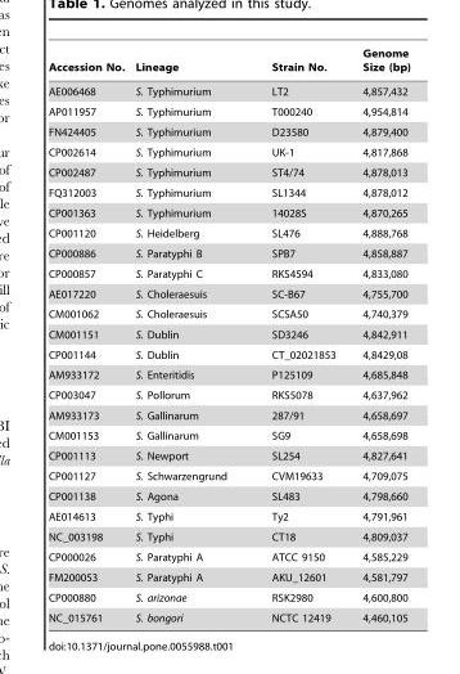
<table><thead><tr><td>Accession No.</td><td>Lineage</td><td>Strain No.</td><td>Genome Size (bp)</td></tr></thead><tbody><tr><td>AE006468</td><td>S. Typhimurium</td><td>LT2</td><td>4,857,432</td></tr><tr><td>AP011957</td><td>S. Typhimurium</td><td>T000240</td><td>4,954,814</td></tr><tr><td>FN424405</td><td>S. Typhimurium</td><td>D23580</td><td>4,879,400</td></tr><tr><td>CP002614</td><td>S. Typhimurium</td><td>UK-1</td><td>4,817,868</td></tr><tr><td>CP002487</td><td>S. Typhimurium</td><td>ST4/74</td><td>4,878,013</td></tr><tr><td>FQ312003</td><td>S. Typhimurium</td><td>SL1344</td><td>4,878,012</td></tr><tr><td>CP001363</td><td>S. Typhimurium</td><td>14028S</td><td>4,870,265</td></tr><tr><td>CP001120</td><td>S. Heidelberg</td><td>SL476</td><td>4,888,768</td></tr><tr><td>CP000886</td><td>S. Paratyphi B</td><td>SPB7</td><td>4,858,887</td></tr><tr><td>CP000857</td><td>S. Paratyphi C</td><td>RKS4594</td><td>4,833,080</td></tr><tr><td>AE017220</td><td>S. Choleraesuis</td><td>SC-B67</td><td>4,755,700</td></tr><tr><td>CM001062</td><td>S. Choleraesuis</td><td>SCSA50</td><td>4,740,379</td></tr><tr><td>CM001151</td><td>S. Dublin</td><td>SD3246</td><td>4,842,911</td></tr><tr><td>CP001144</td><td>S. Dublin</td><td>CT_02021853</td><td>4,8429,08</td></tr><tr><td>AM933172</td><td>S. Enteritidis</td><td>P125109</td><td>4,685,848</td></tr><tr><td>CP003047</td><td>S. Pollorum</td><td>RKS5078</td><td>4,637,962</td></tr><tr><td>AM933173</td><td>S. Gallinarum</td><td>287/91</td><td>4,658,697</td></tr><tr><td>CM001153</td><td>S. Gallinarum</td><td>SG9</td><td>4,658,698</td></tr><tr><td>CP001113</td><td>S. Newport</td><td>SL254</td><td>4,827,641</td></tr><tr><td>CP001127</td><td>S. Schwarzengrund</td><td>CVM19633</td><td>4,709,075</td></tr><tr><td>CP001138</td><td>S. Agona</td><td>SL483</td><td>4,798,660</td></tr><tr><td>AE014613</td><td>S. Typhi</td><td>Ty2</td><td>4,791,961</td></tr><tr><td>NC_003198</td><td>S. Typhi</td><td>CT18</td><td>4,809,037</td></tr><tr><td>CP000026</td><td>S. Paratyphi A</td><td>ATCC 9150</td><td>4,585,229</td></tr><tr><td>FM200053</td><td>S. Paratyphi A</td><td>AKU_12601</td><td>4,581,797</td></tr><tr><td>CP000880</td><td>S. arizonae</td><td>RSK2980</td><td>4,600,800</td></tr><tr><td>NC_015761</td><td>S. bongori</td><td>NCTC 12419</td><td>4,460,105</td></tr></tbody></table>